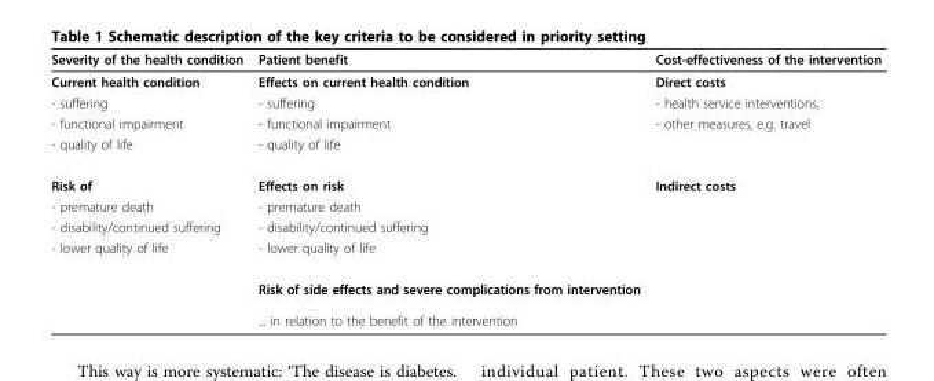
<table><thead><tr><td>Severity of the health condition</td><td>Patient benefit</td><td>Cost-effectiveness of the intervention</td></tr></thead><tbody><tr><td>Current health condition</td><td>Effects on current health condition</td><td>Direct costs</td></tr><tr><td>- suffering</td><td>- suffering</td><td>- health service interventions,</td></tr><tr><td>- functional impairment</td><td>- functional impairment</td><td>- other measures, e.g. travel</td></tr><tr><td>- quality of life</td><td>- quality of life</td><td></td></tr><tr><td>Risk of</td><td>Effects on risk</td><td>Indirect costs</td></tr><tr><td>- premature death</td><td>- premature death</td><td></td></tr><tr><td>- disability/continued suffering</td><td>- disability/continued suffering</td><td></td></tr><tr><td rowspan="2">- lower quality of life</td><td>- lower quality of life</td><td></td></tr><tr><td>Risk of side effects and severe complications from intervention ... in relation to the benefit of the intervention</td><td></td></tr></tbody></table>